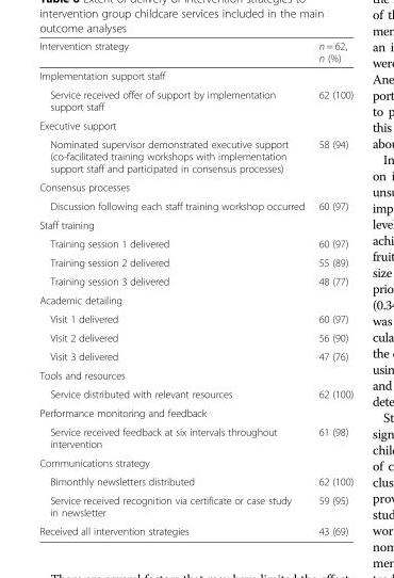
<table><thead><tr><td>Intervention strategy</td><td>n = 62, n (%)</td></tr></thead><tbody><tr><td colspan="2">Implementation support staff</td></tr><tr><td>Service received offer of support by implementation support staff</td><td>62 (100)</td></tr><tr><td colspan="2">Executive support</td></tr><tr><td>Nominated supervisor demonstrated executive support (co-facilitated training workshops with implementation support staff and participated in consensus processes)</td><td>58 (94)</td></tr><tr><td colspan="2">Consensus processes</td></tr><tr><td>Discussion following each staff training workshop occurred</td><td>60 (97)</td></tr><tr><td colspan="2">Staff training</td></tr><tr><td>Training session 1 delivered</td><td>60 (97)</td></tr><tr><td>Training session 2 delivered</td><td>55 (89)</td></tr><tr><td>Training session 3 delivered</td><td>48 (77)</td></tr><tr><td colspan="2">Academic detailing</td></tr><tr><td>Visit 1 delivered</td><td>60 (97)</td></tr><tr><td>Visit 2 delivered</td><td>56 (90)</td></tr><tr><td>Visit 3 delivered</td><td>47 (76)</td></tr><tr><td colspan="2">Tools and resources</td></tr><tr><td>Service distributed with relevant resources</td><td>62 (100)</td></tr><tr><td colspan="2">Performance monitoring and feedback</td></tr><tr><td>Service received feedback at six intervals throughout intervention</td><td>61 (98)</td></tr><tr><td colspan="2">Communications strategy</td></tr><tr><td>Bimonthly newsletters distributed</td><td>62 (100)</td></tr><tr><td>Service received recognition via certificate or case study in newsletter</td><td>59 (95)</td></tr><tr><td>Received all intervention strategies</td><td>43 (69)</td></tr></tbody></table>